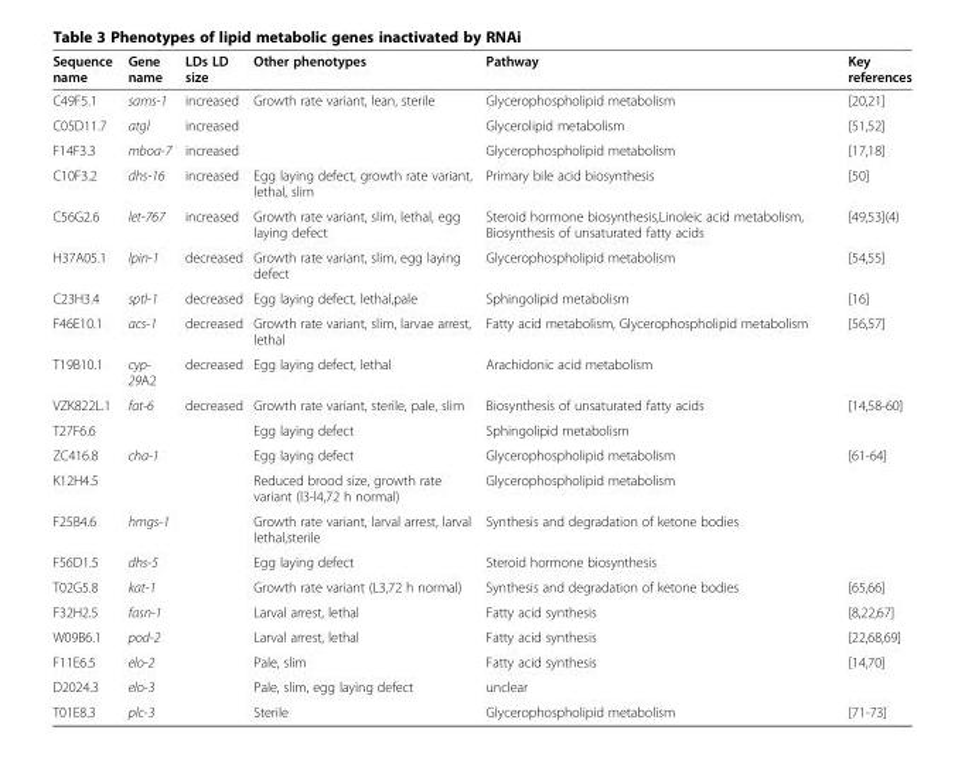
<table><thead><tr><td>Sequence name</td><td>Gene name</td><td>LDs LD size</td><td>Other phenotypes</td><td>Pathway</td><td>Key references</td></tr></thead><tbody><tr><td>C49F5.1</td><td>sams-1</td><td>increased</td><td>Growth rate variant, lean, sterile</td><td>Glycerophospholipid metabolism</td><td>[20,21]</td></tr><tr><td>C05D11.7</td><td>atgl</td><td>increased</td><td></td><td>Glycerolipid metabolism</td><td>[51,52]</td></tr><tr><td>F14F3.3</td><td>mboa-7</td><td>increased</td><td></td><td>Glycerophospholipid metabolism</td><td>[17,18]</td></tr><tr><td>C10F3.2</td><td>dhs-16</td><td>increased</td><td>Egg laying defect, growth rate variant, lethal, slim</td><td>Primary bile acid biosynthesis</td><td>[50]</td></tr><tr><td>C56G2.6</td><td>let-767</td><td>increased</td><td>Growth rate variant, slim, lethal, egg laying defect</td><td>Steroid hormone biosynthesis,Linoleic acid metabolism, Biosynthesis of unsaturated fatty acids</td><td>[49,53](4)</td></tr><tr><td>H37A05.1</td><td>lpin-1</td><td>decreased</td><td>Growth rate variant, slim, egg laying defect</td><td>Glycerophospholipid metabolism</td><td>[54,55]</td></tr><tr><td>C23H3.4</td><td>sptl-1</td><td>decreased</td><td>Egg laying defect, lethal,pale</td><td>Sphingolipid metabolism</td><td>[16]</td></tr><tr><td>F46E10.1</td><td>acs-1</td><td>decreased</td><td>Growth rate variant, slim, larvae arrest, lethal</td><td>Fatty acid metabolism, Glycerophospholipid metabolism</td><td>[56,57]</td></tr><tr><td>T19B10.1</td><td>cyp- 29A2</td><td>decreased</td><td>Egg laying defect, lethal</td><td>Arachidonic acid metabolism</td><td></td></tr><tr><td>VZK822L.1</td><td>fat-6</td><td>decreased</td><td>Growth rate variant, sterile, pale, slim</td><td>Biosynthesis of unsaturated fatty acids</td><td>[14,58-60]</td></tr><tr><td>T27F6.6</td><td></td><td></td><td>Egg laying defect</td><td>Sphingolipid metabolism</td><td></td></tr><tr><td>ZC416.8</td><td>cha-1</td><td></td><td>Egg laying defect</td><td>Glycerophospholipid metabolism</td><td>[61-64]</td></tr><tr><td>K12H4.5</td><td></td><td></td><td>Reduced brood size, growth rate variant (l3-l4,72 h normal)</td><td>Glycerophospholipid metabolism</td><td></td></tr><tr><td>F25B4.6</td><td>hmgs-1</td><td></td><td>Growth rate variant, larval arrest, larval lethal,sterile</td><td>Synthesis and degradation of ketone bodies</td><td></td></tr><tr><td>F56D1.5</td><td>dhs-5</td><td></td><td>Egg laying defect</td><td>Steroid hormone biosynthesis</td><td></td></tr><tr><td>T02G5.8</td><td>kat-1</td><td></td><td>Growth rate variant (L3,72 h normal)</td><td>Synthesis and degradation of ketone bodies</td><td>[65,66]</td></tr><tr><td>F32H2.5</td><td>fasn-1</td><td></td><td>Larval arrest, lethal</td><td>Fatty acid synthesis</td><td>[8,22,67]</td></tr><tr><td>W09B6.1</td><td>pod-2</td><td></td><td>Larval arrest, lethal</td><td>Fatty acid synthesis</td><td>[22,68,69]</td></tr><tr><td>F11E6.5</td><td>elo-2</td><td></td><td>Pale, slim</td><td>Fatty acid synthesis</td><td>[14,70]</td></tr><tr><td>D2024.3</td><td>elo-3</td><td></td><td>Pale, slim, egg laying defect</td><td>unclear</td><td></td></tr><tr><td>T01E8.3</td><td>plc-3</td><td></td><td>Sterile</td><td>Glycerophospholipid metabolism</td><td>[71-73]</td></tr></tbody></table>